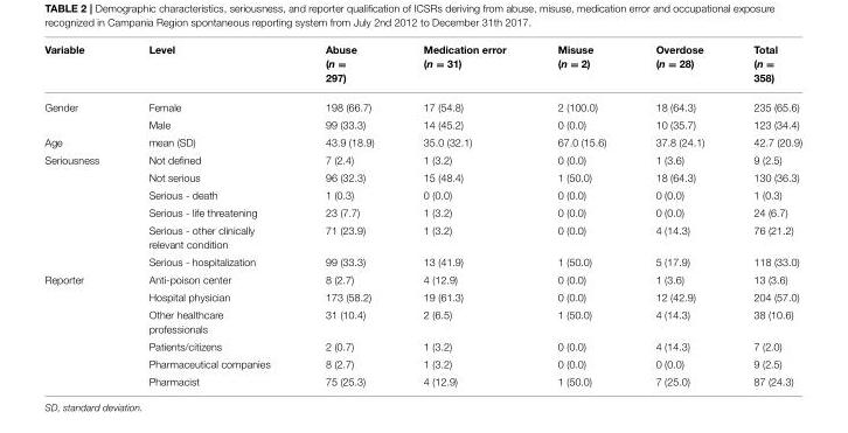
<table><thead><tr><td>Variable</td><td>Level</td><td>Abuse (n = 297)</td><td>Medication error (n = 31)</td><td>Misuse (n = 2)</td><td>Overdose (n = 28)</td><td>Total (n = 358)</td></tr></thead><tbody><tr><td rowspan="2">Gender</td><td>Female</td><td>198 (66.7)</td><td>17 (54.8)</td><td>2 (100.0)</td><td>18 (64.3)</td><td>235 (65.6)</td></tr><tr><td>Male</td><td>99 (33.3)</td><td>14 (45.2)</td><td>0 (0.0)</td><td>10 (35.7)</td><td>123 (34.4)</td></tr><tr><td>Age</td><td>mean (SD)</td><td>43.9 (18.9)</td><td>35.0 (32.1)</td><td>67.0 (15.6)</td><td>37.8 (24.1)</td><td>42.7 (20.9)</td></tr><tr><td rowspan="6">Seriousness</td><td>Not defined</td><td>7 (2.4)</td><td>1 (3.2)</td><td>0 (0.0)</td><td>1 (3.6)</td><td>9 (2.5)</td></tr><tr><td>Not serious</td><td>96 (32.3)</td><td>15 (48.4)</td><td>1 (50.0)</td><td>18 (64.3)</td><td>130 (36.3)</td></tr><tr><td>Serious - death</td><td>1 (0.3)</td><td>0 (0.0)</td><td>0 (0.0)</td><td>0 (0.0)</td><td>1 (0.3)</td></tr><tr><td>Serious - life threatening</td><td>23 (7.7)</td><td>1 (3.2)</td><td>0 (0.0)</td><td>0 (0.0)</td><td>24 (6.7)</td></tr><tr><td>Serious - other clinically relevant condition</td><td>71 (23.9)</td><td>1 (3.2)</td><td>0 (0.0)</td><td>4 (14.3)</td><td>76 (21.2)</td></tr><tr><td>Serious - hospitalization</td><td>99 (33.3)</td><td>13 (41.9)</td><td>1 (50.0)</td><td>5 (17.9)</td><td>118 (33.0)</td></tr><tr><td rowspan="6">Reporter</td><td>Anti-poison center</td><td>8 (2.7)</td><td>4 (12.9)</td><td>0 (0.0)</td><td>1 (3.6)</td><td>13 (3.6)</td></tr><tr><td>Hospital physician</td><td>173 (58.2)</td><td>19 (61.3)</td><td>0 (0.0)</td><td>12 (42.9)</td><td>204 (57.0)</td></tr><tr><td>Other healthcare professionals</td><td>31 (10.4)</td><td>2 (6.5)</td><td>1 (50.0)</td><td>4 (14.3)</td><td>38 (10.6)</td></tr><tr><td>Patients/citizens</td><td>2 (0.7)</td><td>1 (3.2)</td><td>0 (0.0)</td><td>4 (14.3)</td><td>7 (2.0)</td></tr><tr><td>Pharmaceutical companies</td><td>8 (2.7)</td><td>1 (3.2)</td><td>0 (0.0)</td><td>0 (0.0)</td><td>9 (2.5)</td></tr><tr><td>Pharmacist</td><td>75 (25.3)</td><td>4 (12.9)</td><td>1 (50.0)</td><td>7 (25.0)</td><td>87 (24.3)</td></tr></tbody></table>